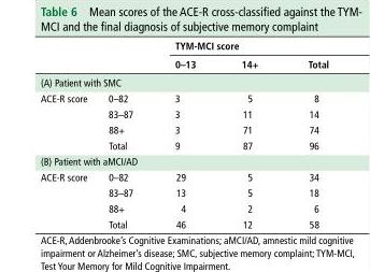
<table><thead><tr><td rowspan="2"></td><td rowspan="2"></td><td colspan="3">tYM-McI score</td></tr><tr><td>0–13</td><td>14+</td><td>total</td></tr></thead><tbody><tr><td colspan="5">(A) Patient with SMC</td></tr><tr><td rowspan="4">ACE-R score</td><td>0–82</td><td>3</td><td>5</td><td>8</td></tr><tr><td>83–87</td><td>3</td><td>11</td><td>14</td></tr><tr><td>88+</td><td>3</td><td>71</td><td>74</td></tr><tr><td>Total</td><td>9</td><td>87</td><td>96</td></tr><tr><td colspan="5">(B) Patient with aMCI/AD</td></tr><tr><td rowspan="4">ACE-R score</td><td>0–82</td><td>29</td><td>5</td><td>34</td></tr><tr><td>83–87</td><td>13</td><td>5</td><td>18</td></tr><tr><td>88+</td><td>4</td><td>2</td><td>6</td></tr><tr><td>Total</td><td>46</td><td>12</td><td>58</td></tr></tbody></table>